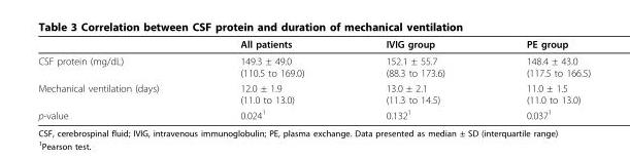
<table><thead><tr><td></td><td>All patients</td><td>IVIG group</td><td>PE group</td></tr></thead><tbody><tr><td>CSF protein (mg/dL)</td><td>149.3 ± 49.0 (110.5 to 169.0)</td><td>152.1 ± 55.7 (88.3 to 173.6)</td><td>148.4 ± 43.0 (117.5 to 166.5)</td></tr><tr><td>Mechanical ventilation (days)</td><td>12.0 ± 1.9 (11.0 to 13.0)</td><td>13.0 ± 2.1 (11.3 to 14.5)</td><td>11.0 ± 1.5 (11.0 to 13.0)</td></tr><tr><td>p-value</td><td>0.024<sup>1</sup></td><td>0.132<sup>1</sup></td><td>0.037<sup>1</sup></td></tr></tbody></table>